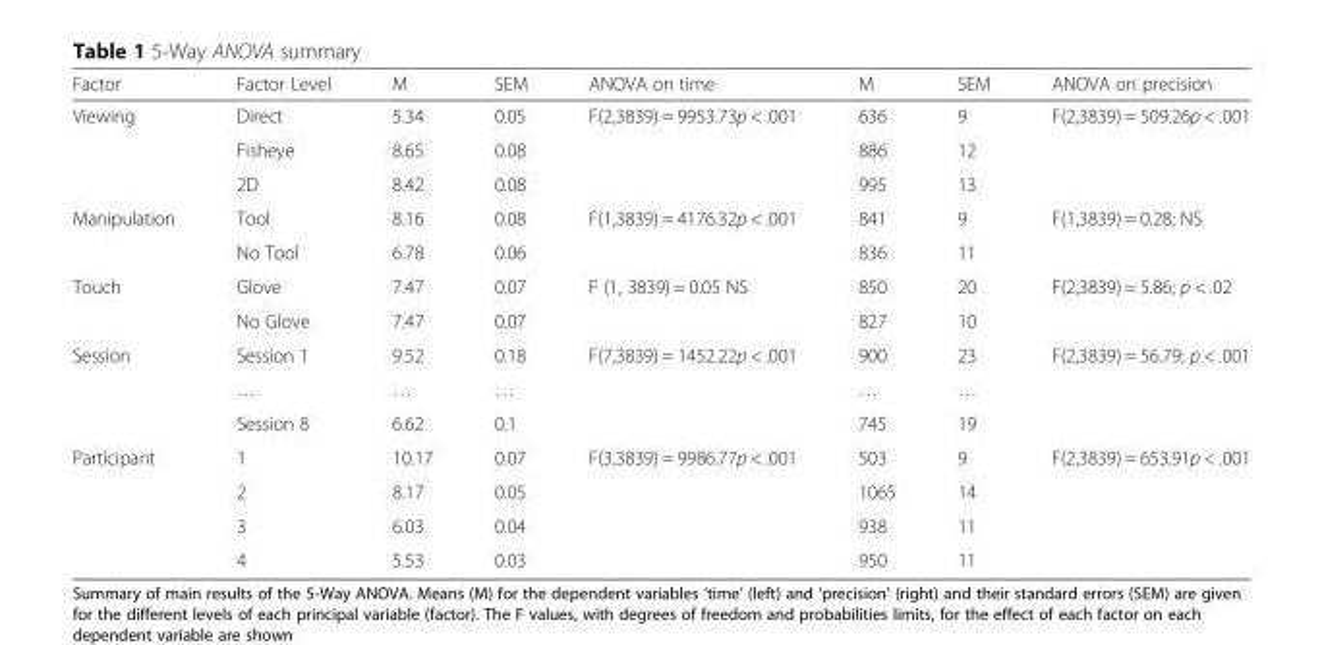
<table><thead><tr><td>Factor</td><td>Factor Level</td><td>M</td><td>SEM</td><td>ANOVA on time</td><td>M</td><td>SEM</td><td>ANOVA on precision</td></tr></thead><tbody><tr><td rowspan="3">Viewing</td><td>Direct</td><td>5.34</td><td>0.05</td><td rowspan="3">F(2,3839) = 9953.73p &lt; .001</td><td>636</td><td>9</td><td rowspan="3">F(2,3839) = 509.26p &lt; .001</td></tr><tr><td>Fisheye</td><td>8.65</td><td>0.08</td><td>886</td><td>12</td></tr><tr><td>2D</td><td>8.42</td><td>0.08</td><td>995</td><td>13</td></tr><tr><td rowspan="2">Manipulation</td><td>Tool</td><td>8.16</td><td>0.08</td><td rowspan="2">F(1,3839) = 4176.32p &lt; .001</td><td>841</td><td>9</td><td rowspan="2">F(1,3839) = 0.28; NS</td></tr><tr><td>No Tool</td><td>6.78</td><td>0.06</td><td>836</td><td>11</td></tr><tr><td rowspan="2">Touch</td><td>Glove</td><td>7.47</td><td>0.07</td><td rowspan="2">F (1, 3839) = 0.05 NS</td><td>850</td><td>20</td><td rowspan="2">F(2,3839) = 5.86; p &lt; .02</td></tr><tr><td>No Glove</td><td>7.47</td><td>0.07</td><td>827</td><td>10</td></tr><tr><td rowspan="3">Session</td><td>Session 1</td><td>9.52</td><td>0.18</td><td rowspan="3">F(7,3839) = 1452.22p &lt; .001</td><td>900</td><td>23</td><td rowspan="3">F(2,3839) = 56.79; p &lt; .001</td></tr><tr><td>…</td><td>…</td><td>…</td><td>…</td><td>…</td></tr><tr><td>Session 8</td><td>6.62</td><td>0.1</td><td>745</td><td>19</td></tr><tr><td rowspan="4">Participant</td><td>1</td><td>10.17</td><td>0.07</td><td rowspan="4">F(3,3839) = 9986.77p &lt; .001</td><td>503</td><td>9</td><td rowspan="4">F(2,3839) = 653.91p &lt; .001</td></tr><tr><td>2</td><td>8.17</td><td>0.05</td><td>1065</td><td>14</td></tr><tr><td>3</td><td>6.03</td><td>0.04</td><td>938</td><td>11</td></tr><tr><td>4</td><td>5.53</td><td>0.03</td><td>950</td><td>11</td></tr></tbody></table>